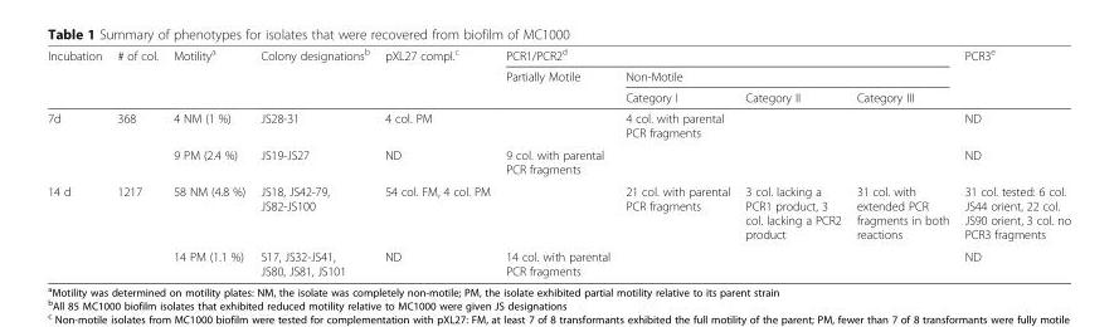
<table><thead><tr><td rowspan="3">Incubation</td><td rowspan="3"># of col.</td><td rowspan="3">Motility<sup>a</sup></td><td rowspan="3">Colony designations<sup>b</sup></td><td rowspan="3">pXL27 compl.<sup>c</sup></td><td colspan="4">PCR1/PCR2<sup>d</sup></td><td rowspan="3">PCR3<sup>e</sup></td></tr><tr><td rowspan="2">Partially Motile</td><td colspan="3">Non-Motile</td></tr><tr><td>Category I</td><td>Category II</td><td>Category III</td></tr></thead><tbody><tr><td rowspan="2">7d</td><td rowspan="2">368</td><td>4 NM (1 %)</td><td>JS28-31</td><td>4 col. PM</td><td></td><td>4 col. with parental PCR fragments</td><td></td><td></td><td>ND</td></tr><tr><td>9 PM (2.4 %)</td><td>JS19-JS27</td><td>ND</td><td>9 col. with parental PCR fragments</td><td></td><td></td><td></td><td>ND</td></tr><tr><td rowspan="2">14 d</td><td rowspan="2">1217</td><td>58 NM (4.8 %)</td><td>JS18, JS42-79, JS82-JS100</td><td>54 col. FM, 4 col. PM</td><td></td><td>21 col. with parental PCR fragments</td><td>3 col. lacking a PCR1 product, 3 col. lacking a PCR2 product</td><td>31 col. with extended PCR fragments in both reactions</td><td>31 col. tested: 6 col. JS44 orient, 22 col. JS90 orient, 3 col. no PCR3 fragments</td></tr><tr><td>14 PM (1.1 %)</td><td>S17, JS32-JS41, JS80, JS81, JS101</td><td>ND</td><td>14 col. with parental PCR fragments</td><td></td><td></td><td></td><td>ND</td></tr></tbody></table>